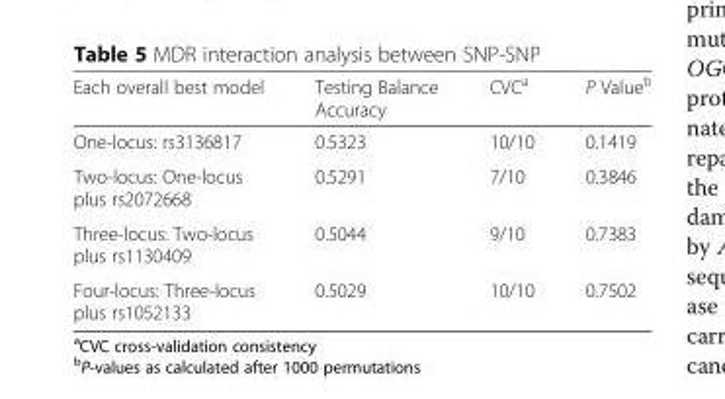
<table><thead><tr><td>Each overall best model</td><td>Testing Balance Accuracy</td><td>CVC<sup>a</sup></td><td>P Value<sup>b</sup></td></tr></thead><tbody><tr><td>One-locus: rs3136817</td><td>0.5323</td><td>10/10</td><td>0.1419</td></tr><tr><td>Two-locus: One-locus plus rs2072668</td><td>0.5291</td><td>7/10</td><td>0.3846</td></tr><tr><td>Three-locus: Two-locus plus rs1130409</td><td>0.5044</td><td>9/10</td><td>0.7383</td></tr><tr><td>Four-locus: Three-locus plus rs1052133</td><td>0.5029</td><td>10/10</td><td>0.7502</td></tr></tbody></table>